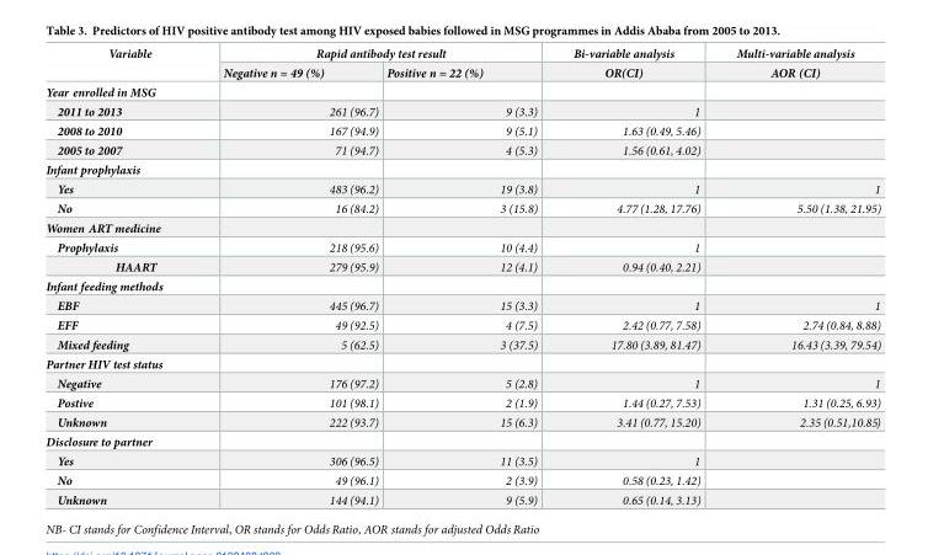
<table><thead><tr><td rowspan="2">Variable</td><td colspan="2">Rapid antibody test result</td><td rowspan="2">Bi-variable analysis OR(CI)</td><td rowspan="2">Multi-variable analysis AOR (CI)</td></tr><tr><td>Negative n = 49 (%)</td><td>Positive n = 22 (%)</td></tr></thead><tbody><tr><td colspan="5">Year enrolled in MSG</td></tr><tr><td>2011 to 2013</td><td>261 (96.7)</td><td>9 (3.3)</td><td>1</td><td></td></tr><tr><td>2008 to 2010</td><td>167 (94.9)</td><td>9 (5.1)</td><td>1.63 (0.49, 5.46)</td><td></td></tr><tr><td>2005 to 2007</td><td>71 (94.7)</td><td>4 (5.3)</td><td>1.56 (0.61, 4.02)</td><td></td></tr><tr><td colspan="5">Infant prophylaxis</td></tr><tr><td>Yes</td><td>483 (96.2)</td><td>19 (3.8)</td><td>1</td><td>1</td></tr><tr><td>No</td><td>16 (84.2)</td><td>3 (15.8)</td><td>4.77 (1.28, 17.76)</td><td>5.50 (1.38, 21.95)</td></tr><tr><td colspan="5">Women ART medicine</td></tr><tr><td>Prophylaxis</td><td>218 (95.6)</td><td>10 (4.4)</td><td>1</td><td></td></tr><tr><td>HAART</td><td>279 (95.9)</td><td>12 (4.1)</td><td>0.94 (0.40, 2.21)</td><td></td></tr><tr><td colspan="5">Infant feeding methods</td></tr><tr><td>EBF</td><td>445 (96.7)</td><td>15 (3.3)</td><td>1</td><td>1</td></tr><tr><td>EFF</td><td>49 (92.5)</td><td>4 (7.5)</td><td>2.42 (0.77, 7.58)</td><td>2.74 (0.84, 8.88)</td></tr><tr><td>Mixed feeding</td><td>5 (62.5)</td><td>3 (37.5)</td><td>17.80 (3.89, 81.47)</td><td>16.43 (3.39, 79.54)</td></tr><tr><td colspan="5">Partner HIV test status</td></tr><tr><td>Negative</td><td>176 (97.2)</td><td>5 (2.8)</td><td>1</td><td>1</td></tr><tr><td>Postive</td><td>101 (98.1)</td><td>2 (1.9)</td><td>1.44 (0.27, 7.53)</td><td>1.31 (0.25, 6.93)</td></tr><tr><td>Unknown</td><td>222 (93.7)</td><td>15 (6.3)</td><td>3.41 (0.77, 15.20)</td><td>2.35 (0.51,10.85)</td></tr><tr><td colspan="5">Disclosure to partner</td></tr><tr><td>Yes</td><td>306 (96.5)</td><td>11 (3.5)</td><td>1</td><td></td></tr><tr><td>No</td><td>49 (96.1)</td><td>2 (3.9)</td><td>0.58 (0.23, 1.42)</td><td></td></tr><tr><td>Unknown</td><td>144 (94.1)</td><td>9 (5.9)</td><td>0.65 (0.14, 3.13)</td><td></td></tr></tbody></table>